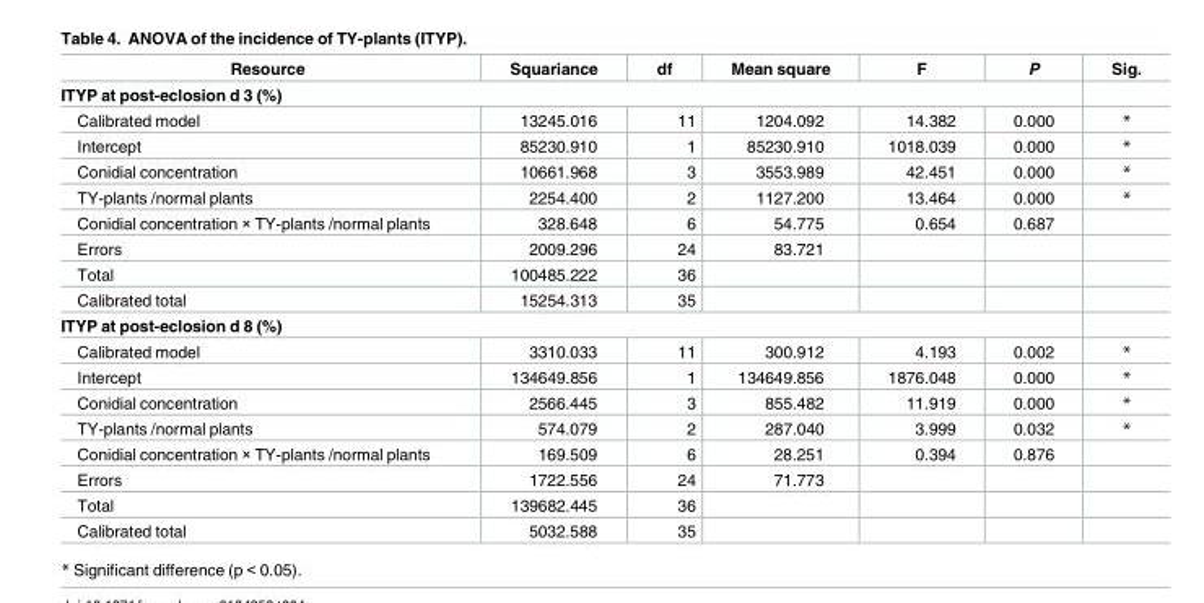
<table><thead><tr><td>Resource</td><td>Squariance</td><td>df</td><td>Mean square</td><td>F</td><td>P</td><td>Sig.</td></tr></thead><tbody><tr><td colspan="7">ITYP at post-eclosion d 3 (%)</td></tr><tr><td>Calibrated model</td><td>13245.016</td><td>11</td><td>1204.092</td><td>14.382</td><td>0.000</td><td>*</td></tr><tr><td>Intercept</td><td>85230.910</td><td>1</td><td>85230.910</td><td>1018.039</td><td>0.000</td><td>*</td></tr><tr><td>Conidial concentration</td><td>10661.968</td><td>3</td><td>3553.989</td><td>42.451</td><td>0.000</td><td>*</td></tr><tr><td>TY-plants /normal plants</td><td>2254.400</td><td>2</td><td>1127.200</td><td>13.464</td><td>0.000</td><td>*</td></tr><tr><td>Conidial concentration × TY-plants /normal plants</td><td>328.648</td><td>6</td><td>54.775</td><td>0.654</td><td>0.687</td><td></td></tr><tr><td>Errors</td><td>2009.296</td><td>24</td><td>83.721</td><td></td><td></td><td></td></tr><tr><td>Total</td><td>100485.222</td><td>36</td><td></td><td></td><td></td><td></td></tr><tr><td>Calibrated total</td><td>15254.313</td><td>35</td><td></td><td></td><td></td><td></td></tr><tr><td colspan="7">ITYP at post-eclosion d 8 (%)</td></tr><tr><td>Calibrated model</td><td>3310.033</td><td>11</td><td>300.912</td><td>4.193</td><td>0.002</td><td>*</td></tr><tr><td>Intercept</td><td>134649.856</td><td>1</td><td>134649.856</td><td>1876.048</td><td>0.000</td><td>*</td></tr><tr><td>Conidial concentration</td><td>2566.445</td><td>3</td><td>855.482</td><td>11.919</td><td>0.000</td><td>*</td></tr><tr><td>TY-plants /normal plants</td><td>574.079</td><td>2</td><td>287.040</td><td>3.999</td><td>0.032</td><td>*</td></tr><tr><td>Conidial concentration × TY-plants /normal plants</td><td>169.509</td><td>6</td><td>28.251</td><td>0.394</td><td>0.876</td><td></td></tr><tr><td>Errors</td><td>1722.556</td><td>24</td><td>71.773</td><td></td><td></td><td></td></tr><tr><td>Total</td><td>139682.445</td><td>36</td><td></td><td></td><td></td><td></td></tr><tr><td>Calibrated total</td><td>5032.588</td><td>35</td><td></td><td></td><td></td><td></td></tr></tbody></table>